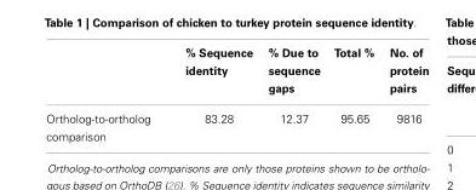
<table><thead><tr><td></td><td>% Sequence identity</td><td>% Due to sequence gaps</td><td>Total %</td><td>No. of protein pairs</td></tr></thead><tbody><tr><td>Ortholog-to-ortholog comparison</td><td>83.28</td><td>12.37</td><td>95.65</td><td>9816</td></tr></tbody></table>